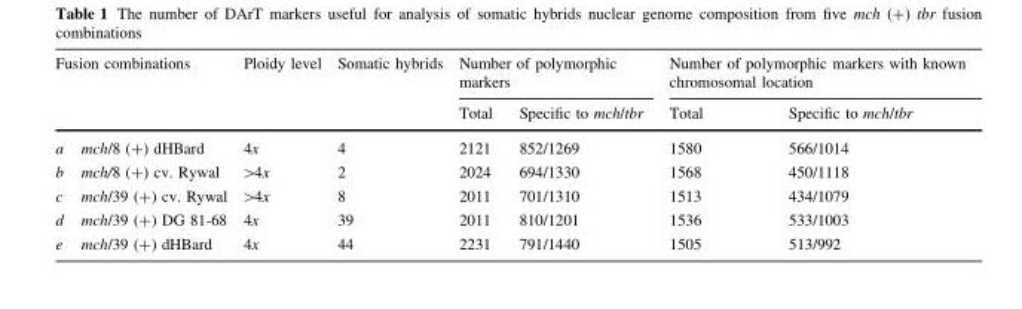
<table><thead><tr><td rowspan="2" colspan="2">Fusion combinations</td><td rowspan="3">Ploidy level 4x</td><td rowspan="3">Somatic hybrids 4</td><td colspan="2">Number of polymorphic markers</td><td colspan="2">Number of polymorphic markers with known chromosomal location</td></tr><tr><td rowspan="2">Total 2121</td><td rowspan="2">Specific to mch/tbr 852/1269</td><td rowspan="2">Total 1580</td><td rowspan="2">Specific to mch/tbr 566/1014</td></tr><tr><td>a</td><td>mch/8 (+) dHBard</td></tr></thead><tbody><tr><td>b</td><td>mch/8 (+) cv. Rywal</td><td>&gt;4x</td><td>2</td><td>2024</td><td>694/1330</td><td>1568</td><td>450/1118</td></tr><tr><td>c</td><td>mch/39 (+) cv. Rywal</td><td>&gt;4x</td><td>8</td><td>2011</td><td>701/1310</td><td>1513</td><td>434/1079</td></tr><tr><td>d</td><td>mch/39 (+) DG 81-68</td><td>4x</td><td>39</td><td>2011</td><td>810/1201</td><td>1536</td><td>533/1003</td></tr><tr><td>e</td><td>mch/39 (+) dHBard</td><td>4x</td><td>44</td><td>2231</td><td>791/1440</td><td>1505</td><td>513/992</td></tr></tbody></table>